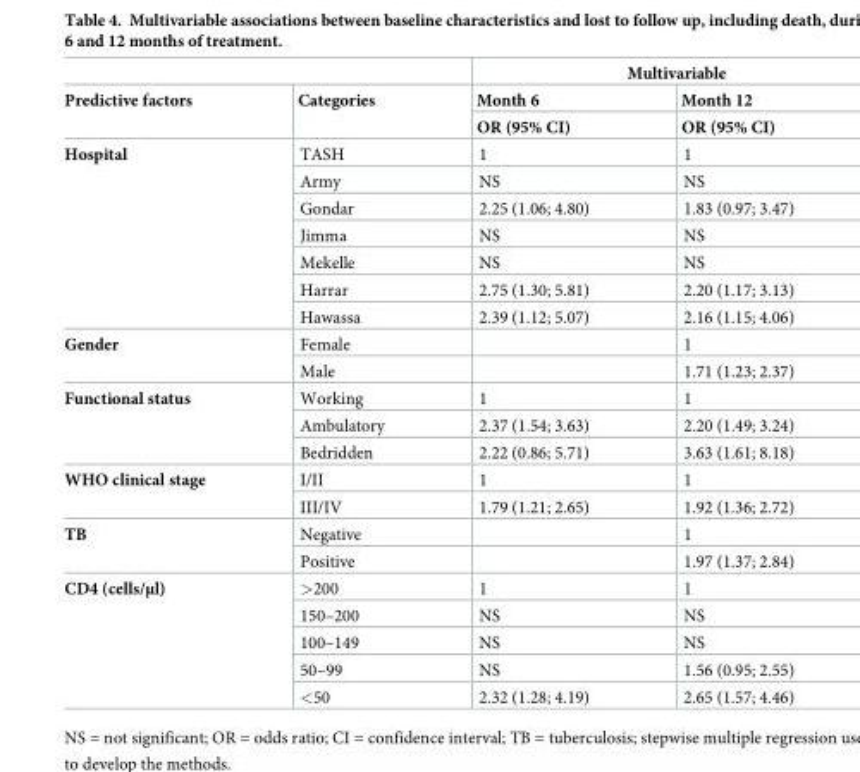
<table><thead><tr><td rowspan="3">Predictive factors</td><td rowspan="3">Categories</td><td colspan="2">Multivariable</td></tr><tr><td rowspan="2">Month 6 OR (95% CI)</td><td rowspan="2">Month 12 OR (95% CI)</td></tr><tr></tr></thead><tbody><tr><td rowspan="7">Hospital</td><td>TASH</td><td>1</td><td>1</td></tr><tr><td>Army</td><td>NS</td><td>NS</td></tr><tr><td>Gondar</td><td>2.25 (1.06; 4.80)</td><td>1.83 (0.97; 3.47)</td></tr><tr><td>Jimma</td><td>NS</td><td>NS</td></tr><tr><td>Mekelle</td><td>NS</td><td>NS</td></tr><tr><td>Harrar</td><td>2.75 (1.30; 5.81)</td><td>2.20 (1.17; 3.13)</td></tr><tr><td>Hawassa</td><td>2.39 (1.12; 5.07)</td><td>2.16 (1.15; 4.06)</td></tr><tr><td rowspan="2">Gender</td><td>Female</td><td></td><td>1</td></tr><tr><td>Male</td><td></td><td>1.71 (1.23; 2.37)</td></tr><tr><td rowspan="3">Functional status</td><td>Working</td><td>1</td><td>1</td></tr><tr><td>Ambulatory</td><td>2.37 (1.54; 3.63)</td><td>2.20 (1.49; 3.24)</td></tr><tr><td>Bedridden</td><td>2.22 (0.86; 5.71)</td><td>3.63 (1.61; 8.18)</td></tr><tr><td rowspan="2">WHO clinical stage</td><td>I/II</td><td>1</td><td>1</td></tr><tr><td>III/IV</td><td>1.79 (1.21; 2.65)</td><td>1.92 (1.36; 2.72)</td></tr><tr><td rowspan="2">TB</td><td>Negative</td><td></td><td>1</td></tr><tr><td>Positive</td><td></td><td>1.97 (1.37; 2.84)</td></tr><tr><td rowspan="5">CD4 (cells/μl)</td><td>&gt;200</td><td>1</td><td>1</td></tr><tr><td>150–200</td><td>NS</td><td>NS</td></tr><tr><td>100–149</td><td>NS</td><td>NS</td></tr><tr><td>50–99</td><td>NS</td><td>1.56 (0.95; 2.55)</td></tr><tr><td>&lt;50</td><td>2.32 (1.28; 4.19)</td><td>2.65 (1.57; 4.46)</td></tr></tbody></table>